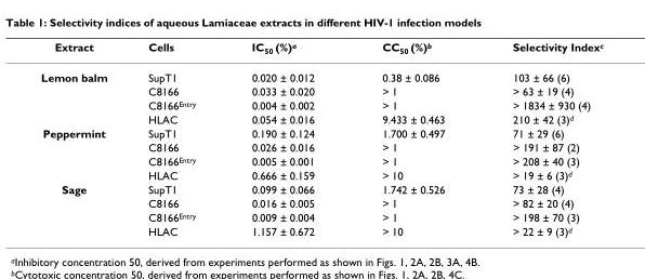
<table><thead><tr><td>Extract</td><td>Cells</td><td>IC<sub>50</sub> (%)<sup>a</sup></td><td>CC<sub>50</sub> (%)<sup>b</sup></td><td>Selectivity Index<sup>c</sup></td></tr></thead><tbody><tr><td rowspan="4">Lemon balm</td><td>SupT1</td><td>0.020 ± 0.012</td><td>0.38 ± 0.086</td><td>103 ± 66 (6)</td></tr><tr><td>C8166</td><td>0.033 ± 0.020</td><td>&gt; 1</td><td>&gt; 63 ± 19 (4)</td></tr><tr><td>C8166<sup>Entry</sup></td><td>0.004 ± 0.002</td><td>&gt; 1</td><td>&gt; 1834 ± 930 (4)</td></tr><tr><td>HLAC</td><td>0.054 ± 0.016</td><td>9.433 ± 0.463</td><td>210 ± 42 (3)<sup>d</sup></td></tr><tr><td rowspan="4">Peppermint</td><td>SupT1</td><td>0.190 ± 0.124</td><td>1.700 ± 0.497</td><td>71 ± 29 (6)</td></tr><tr><td>C8166</td><td>0.026 ± 0.016</td><td>&gt; 1</td><td>&gt; 191 ± 87 (2)</td></tr><tr><td>C8166<sup>Entry</sup></td><td>0.005 ± 0.001</td><td>&gt; 1</td><td>&gt; 208 ± 40 (3)</td></tr><tr><td>HLAC</td><td>0.666 ± 0.159</td><td>&gt; 10</td><td>&gt; 19 ± 6 (3)<sup>d</sup></td></tr><tr><td rowspan="4">Sage</td><td>SupT1</td><td>0.099 ± 0.066</td><td>1.742 ± 0.526</td><td>73 ± 28 (4)</td></tr><tr><td>C8166</td><td>0.016 ± 0.005</td><td>&gt; 1</td><td>&gt; 82 ± 20 (4)</td></tr><tr><td>C8166<sup>Entry</sup></td><td>0.009 ± 0.004</td><td>&gt; 1</td><td>&gt; 198 ± 70 (3)</td></tr><tr><td>HLAC</td><td>1.157 ± 0.672</td><td>&gt; 10</td><td>&gt; 22 ± 9 (3)<sup>d</sup></td></tr></tbody></table>